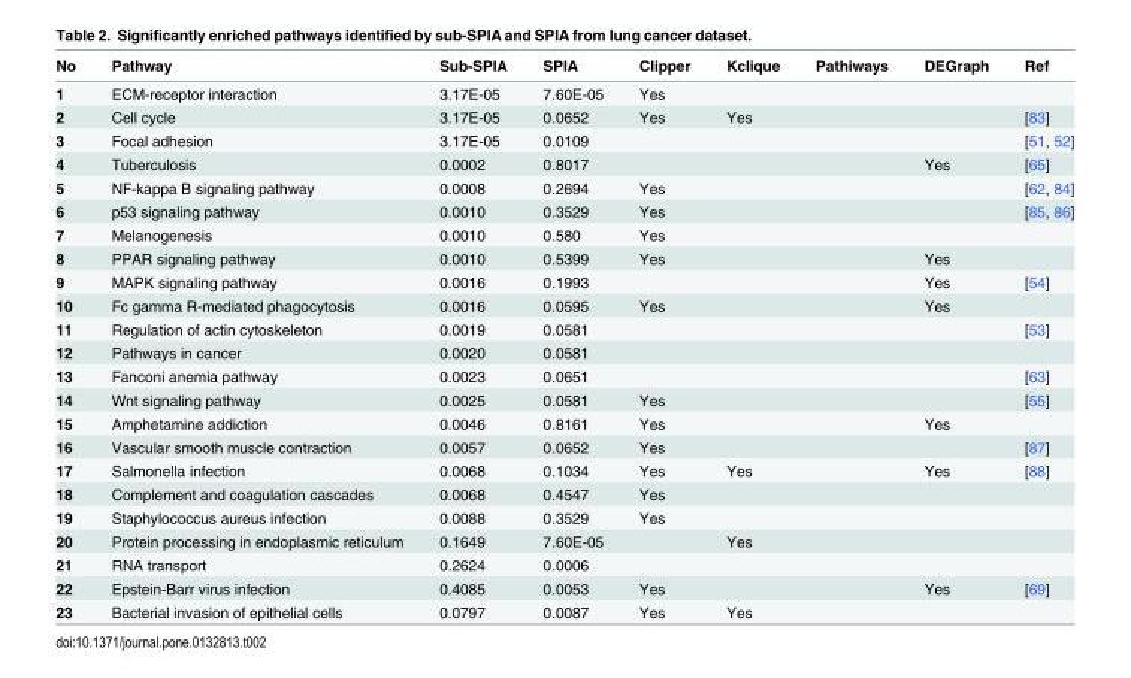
<table><thead><tr><td>No</td><td>Pathway</td><td>Sub-SPIA</td><td>SPIA</td><td>Clipper</td><td>Kclique</td><td>Pathiways</td><td>DEGraph</td><td>Ref</td></tr></thead><tbody><tr><td>1</td><td>ECM-receptor interaction</td><td>3.17E-05</td><td>7.60E-05</td><td>Yes</td><td></td><td></td><td></td><td></td></tr><tr><td>2</td><td>Cell cycle</td><td>3.17E-05</td><td>0.0652</td><td>Yes</td><td>Yes</td><td></td><td></td><td>[83]</td></tr><tr><td>3</td><td>Focal adhesion</td><td>3.17E-05</td><td>0.0109</td><td></td><td></td><td></td><td></td><td>[51, 52]</td></tr><tr><td>4</td><td>Tuberculosis</td><td>0.0002</td><td>0.8017</td><td></td><td></td><td></td><td>Yes</td><td>[65]</td></tr><tr><td>5</td><td>NF-kappa B signaling pathway</td><td>0.0008</td><td>0.2694</td><td>Yes</td><td></td><td></td><td></td><td>[62, 84]</td></tr><tr><td>6</td><td>p53 signaling pathway</td><td>0.0010</td><td>0.3529</td><td>Yes</td><td></td><td></td><td></td><td>[85, 86]</td></tr><tr><td>7</td><td>Melanogenesis</td><td>0.0010</td><td>0.580</td><td>Yes</td><td></td><td></td><td></td><td></td></tr><tr><td>8</td><td>PPAR signaling pathway</td><td>0.0010</td><td>0.5399</td><td>Yes</td><td></td><td></td><td>Yes</td><td></td></tr><tr><td>9</td><td>MAPK signaling pathway</td><td>0.0016</td><td>0.1993</td><td></td><td></td><td></td><td>Yes</td><td>[54]</td></tr><tr><td>10</td><td>Fc gamma R-mediated phagocytosis</td><td>0.0016</td><td>0.0595</td><td>Yes</td><td></td><td></td><td>Yes</td><td></td></tr><tr><td>11</td><td>Regulation of actin cytoskeleton</td><td>0.0019</td><td>0.0581</td><td></td><td></td><td></td><td></td><td>[53]</td></tr><tr><td>12</td><td>Pathways in cancer</td><td>0.0020</td><td>0.0581</td><td></td><td></td><td></td><td></td><td></td></tr><tr><td>13</td><td>Fanconi anemia pathway</td><td>0.0023</td><td>0.0651</td><td></td><td></td><td></td><td></td><td>[63]</td></tr><tr><td>14</td><td>Wnt signaling pathway</td><td>0.0025</td><td>0.0581</td><td>Yes</td><td></td><td></td><td></td><td>[55]</td></tr><tr><td>15</td><td>Amphetamine addiction</td><td>0.0046</td><td>0.8161</td><td>Yes</td><td></td><td></td><td>Yes</td><td></td></tr><tr><td>16</td><td>Vascular smooth muscle contraction</td><td>0.0057</td><td>0.0652</td><td>Yes</td><td></td><td></td><td></td><td>[87]</td></tr><tr><td>17</td><td>Salmonella infection</td><td>0.0068</td><td>0.1034</td><td>Yes</td><td>Yes</td><td></td><td>Yes</td><td>[88]</td></tr><tr><td>18</td><td>Complement and coagulation cascades</td><td>0.0068</td><td>0.4547</td><td>Yes</td><td></td><td></td><td></td><td></td></tr><tr><td>19</td><td>Staphylococcus aureus infection</td><td>0.0088</td><td>0.3529</td><td>Yes</td><td></td><td></td><td></td><td></td></tr><tr><td>20</td><td>Protein processing in endoplasmic reticulum</td><td>0.1649</td><td>7.60E-05</td><td></td><td>Yes</td><td></td><td></td><td></td></tr><tr><td>21</td><td>RNA transport</td><td>0.2624</td><td>0.0006</td><td></td><td></td><td></td><td></td><td></td></tr><tr><td>22</td><td>Epstein-Barr virus infection</td><td>0.4085</td><td>0.0053</td><td>Yes</td><td></td><td></td><td>Yes</td><td>[69]</td></tr><tr><td>23</td><td>Bacterial invasion of epithelial cells</td><td>0.0797</td><td>0.0087</td><td>Yes</td><td>Yes</td><td></td><td></td><td></td></tr></tbody></table>